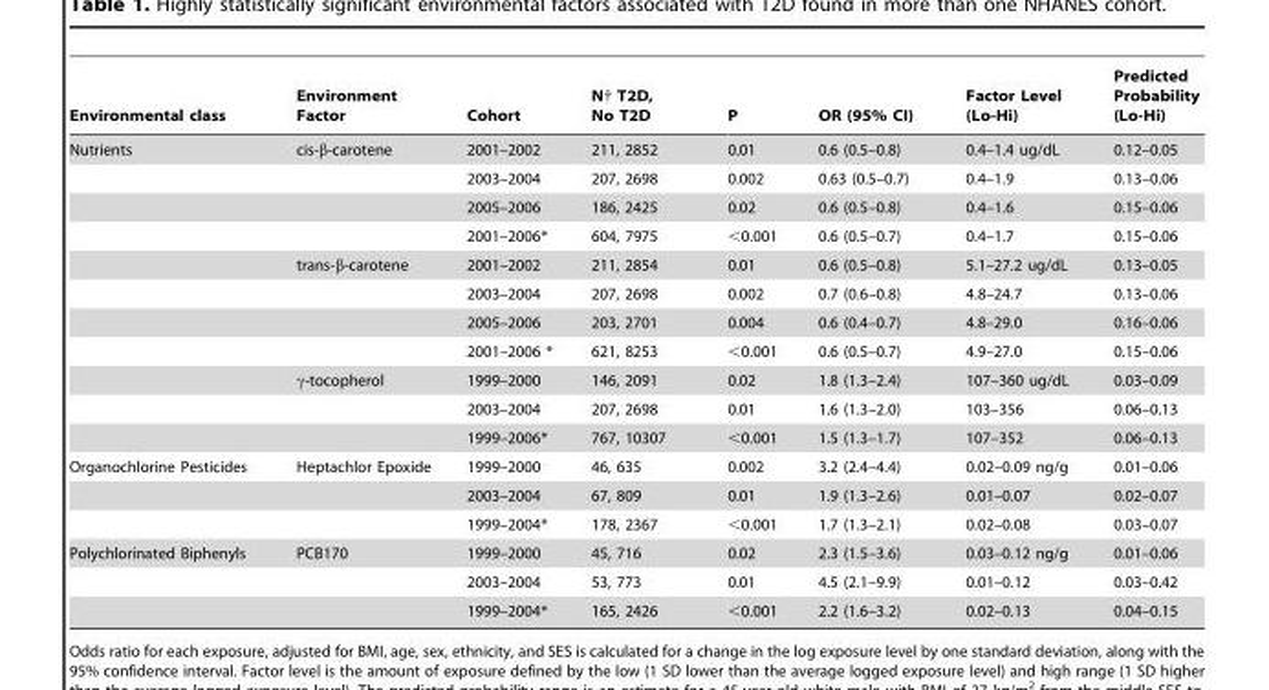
<table><thead><tr><td>Environmental class</td><td>Environment Factor</td><td>Cohort</td><td>N† T2D, No T2D</td><td>P</td><td>OR (95% CI)</td><td>Factor Level (Lo-Hi)</td><td>Predicted Probability (Lo-Hi)</td></tr></thead><tbody><tr><td rowspan="11">Nutrients</td><td>cis-β-carotene</td><td>2001–2002</td><td>211, 2852</td><td>0.01</td><td>0.6 (0.5–0.8)</td><td>0.4–1.4 ug/dL</td><td>0.12–0.05</td></tr><tr><td></td><td>2003–2004</td><td>207, 2698</td><td>0.002</td><td>0.63 (0.5–0.7)</td><td>0.4–1.9</td><td>0.13–0.06</td></tr><tr><td></td><td>2005–2006</td><td>186, 2425</td><td>0.02</td><td>0.6 (0.5–0.8)</td><td>0.4–1.6</td><td>0.15–0.06</td></tr><tr><td></td><td>2001–2006*</td><td>604, 7975</td><td>&lt;0.001</td><td>0.6 (0.5–0.7)</td><td>0.4–1.7</td><td>0.15–0.06</td></tr><tr><td>trans-β-carotene</td><td>2001–2002</td><td>211, 2854</td><td>0.01</td><td>0.6 (0.5–0.8)</td><td>5.1–27.2 ug/dL</td><td>0.13–0.05</td></tr><tr><td></td><td>2003–2004</td><td>207, 2698</td><td>0.002</td><td>0.7 (0.6–0.8)</td><td>4.8–24.7</td><td>0.13–0.06</td></tr><tr><td></td><td>2005–2006</td><td>203, 2701</td><td>0.004</td><td>0.6 (0.4–0.7)</td><td>4.8–29.0</td><td>0.16–0.06</td></tr><tr><td></td><td>2001–2006 *</td><td>621, 8253</td><td>&lt;0.001</td><td>0.6 (0.5–0.7)</td><td>4.9–27.0</td><td>0.15–0.06</td></tr><tr><td>γ-tocopherol</td><td>1999–2000</td><td>146, 2091</td><td>0.02</td><td>1.8 (1.3–2.4)</td><td>107–360 ug/dL</td><td>0.03–0.09</td></tr><tr><td></td><td>2003–2004</td><td>207, 2698</td><td>0.01</td><td>1.6 (1.3–2.0)</td><td>103–356</td><td>0.06–0.13</td></tr><tr><td></td><td>1999–2006*</td><td>767, 10307</td><td>&lt;0.001</td><td>1.5 (1.3–1.7)</td><td>107–352</td><td>0.06–0.13</td></tr><tr><td rowspan="3">Organochlorine Pesticides</td><td>Heptachlor Epoxide</td><td>1999–2000</td><td>46, 635</td><td>0.002</td><td>3.2 (2.4–4.4)</td><td>0.02–0.09 ng/g</td><td>0.01–0.06</td></tr><tr><td></td><td>2003–2004</td><td>67, 809</td><td>0.01</td><td>1.9 (1.3–2.6)</td><td>0.01–0.07</td><td>0.02–0.07</td></tr><tr><td></td><td>1999–2004*</td><td>178, 2367</td><td>&lt;0.001</td><td>1.7 (1.3–2.1)</td><td>0.02–0.08</td><td>0.03–0.07</td></tr><tr><td rowspan="3">Polychlorinated Biphenyls</td><td>PCB170</td><td>1999–2000</td><td>45, 716</td><td>0.02</td><td>2.3 (1.5–3.6)</td><td>0.03–0.12 ng/g</td><td>0.01–0.06</td></tr><tr><td></td><td>2003–2004</td><td>53, 773</td><td>0.01</td><td>4.5 (2.1–9.9)</td><td>0.01–0.12</td><td>0.03–0.42</td></tr><tr><td></td><td>1999–2004*</td><td>165, 2426</td><td>&lt;0.001</td><td>2.2 (1.6–3.2)</td><td>0.02–0.13</td><td>0.04–0.15</td></tr></tbody></table>